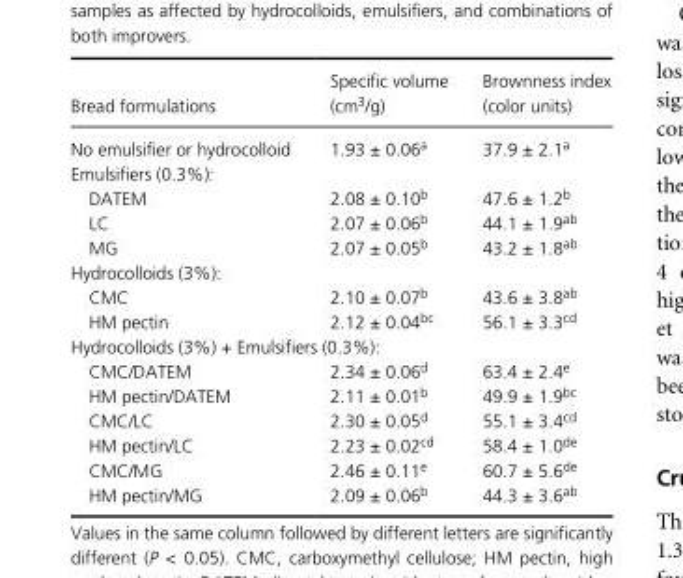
<table><thead><tr><td>Bread formulations</td><td>Specific volume (cm<sup>3</sup>/g)</td><td>Brownness index (color units)</td></tr></thead><tbody><tr><td>No emulsifier or hydrocolloid</td><td>1.93 ± 0.06<sup>a</sup></td><td>37.9 ± 2.1<sup>a</sup></td></tr><tr><td colspan="3">Emulsifiers (0.3%):</td></tr><tr><td>DATEM</td><td>2.08 ± 0.10<sup>b</sup></td><td>47.6 ± 1.2<sup>b</sup></td></tr><tr><td>LC</td><td>2.07 ± 0.06<sup>b</sup></td><td>44.1 ± 1.9<sup>ab</sup></td></tr><tr><td>MG</td><td>2.07 ± 0.05<sup>b</sup></td><td>43.2 ± 1.8<sup>ab</sup></td></tr><tr><td colspan="3">Hydrocolloids (3%):</td></tr><tr><td>CMC</td><td>2.10 ± 0.07<sup>b</sup></td><td>43.6 ± 3.8<sup>ab</sup></td></tr><tr><td>HM pectin</td><td>2.12 ± 0.04<sup>bc</sup></td><td>56.1 ± 3.3<sup>cd</sup></td></tr><tr><td colspan="3">Hydrocolloids (3%) + Emulsifiers (0.3%):</td></tr><tr><td>CMC/DATEM</td><td>2.34 ± 0.06<sup>d</sup></td><td>63.4 ± 2.4<sup>e</sup></td></tr><tr><td>HM pectin/DATEM</td><td>2.11 ± 0.01<sup>b</sup></td><td>49.9 ± 1.9<sup>bc</sup></td></tr><tr><td>CMC/LC</td><td>2.30 ± 0.05<sup>d</sup></td><td>55.1 ± 3.4<sup>cd</sup></td></tr><tr><td>HM pectin/LC</td><td>2.23 ± 0.02<sup>cd</sup></td><td>58.4 ± 1.0<sup>de</sup></td></tr><tr><td>CMC/MG</td><td>2.46 ± 0.11<sup>e</sup></td><td>60.7 ± 5.6<sup>de</sup></td></tr><tr><td>HM pectin/MG</td><td>2.09 ± 0.06<sup>b</sup></td><td>44.3 ± 3.6<sup>ab</sup></td></tr></tbody></table>